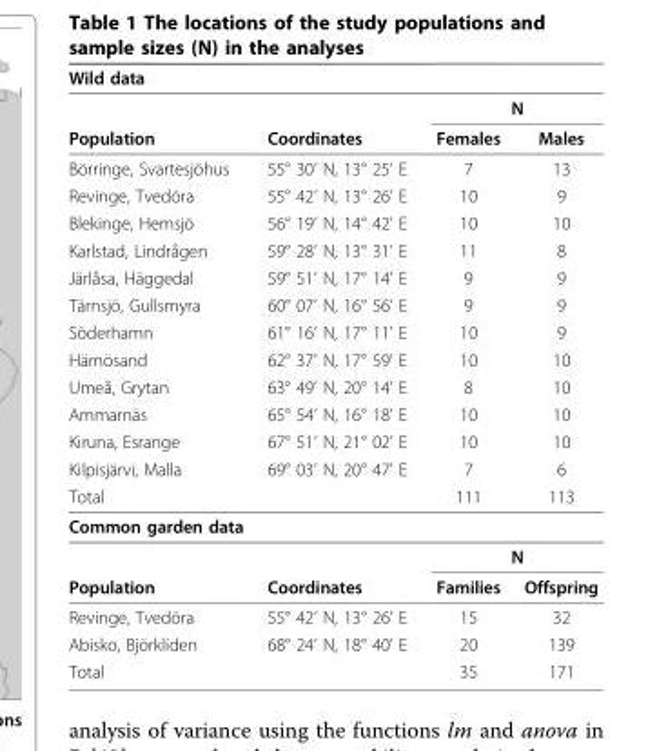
<table><thead><tr><td>Wild data</td><td></td><td></td><td></td></tr></thead><tbody><tr><td></td><td></td><td colspan="2">N</td></tr><tr><td>Population</td><td>Coordinates</td><td>Females</td><td>Males</td></tr><tr><td>Börringe, Svartesjöhus</td><td>55° 30’ N, 13° 25’ E</td><td>7</td><td>13</td></tr><tr><td>Revinge, Tvedöra</td><td>55° 42’ N, 13° 26’ E</td><td>10</td><td>9</td></tr><tr><td>Blekinge, Hemsjö</td><td>56° 19’ N, 14° 42’ E</td><td>10</td><td>10</td></tr><tr><td>Karlstad, Lindrågen</td><td>59° 28’ N, 13° 31’ E</td><td>11</td><td>8</td></tr><tr><td>Järlåsa, Häggedal</td><td>59° 51’ N, 17° 14’ E</td><td>9</td><td>9</td></tr><tr><td>Tärnsjö, Gullsmyra</td><td>60° 07’ N, 16° 56’ E</td><td>9</td><td>9</td></tr><tr><td>Söderhamn</td><td>61° 16’ N, 17° 11’ E</td><td>10</td><td>9</td></tr><tr><td>Härnösand</td><td>62° 37’ N, 17° 59’ E</td><td>10</td><td>10</td></tr><tr><td>Umeå, Grytan</td><td>63° 49’ N, 20° 14’ E</td><td>8</td><td>10</td></tr><tr><td>Ammarnäs</td><td>65° 54’ N, 16° 18’ E</td><td>10</td><td>10</td></tr><tr><td>Kiruna, Esrange</td><td>67° 51’ N, 21° 02’ E</td><td>10</td><td>10</td></tr><tr><td>Kilpisjärvi, Malla</td><td>69° 03’ N, 20° 47’ E</td><td>7</td><td>6</td></tr><tr><td>Total</td><td></td><td>111</td><td>113</td></tr><tr><td colspan="4">Common garden data</td></tr><tr><td></td><td></td><td colspan="2">N</td></tr><tr><td>Population</td><td>Coordinates</td><td>Families</td><td>Offspring</td></tr><tr><td>Revinge, Tvedöra</td><td>55° 42’ N, 13° 26’ E</td><td>15</td><td>32</td></tr><tr><td>Abisko, Björkliden</td><td>68° 24’ N, 18° 40’ E</td><td>20</td><td>139</td></tr><tr><td>Total</td><td></td><td>35</td><td>171</td></tr></tbody></table>